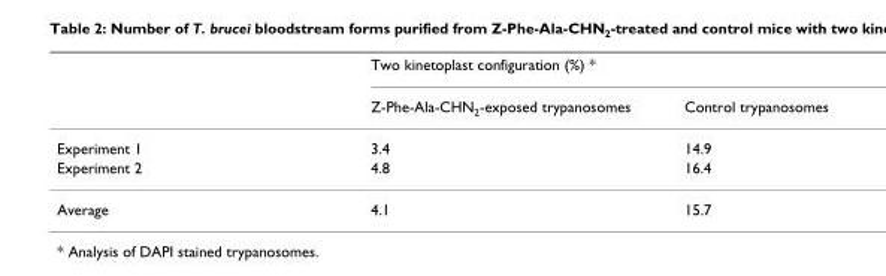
<table><thead><tr><td rowspan="2"></td><td colspan="2">Two kinetoplast configuration (%) *</td></tr><tr><td>Z-Phe-Ala-CHN<sub>2</sub>-exposed trypanosomes</td><td>Control trypanosomes</td></tr></thead><tbody><tr><td>Experiment 1</td><td>3.4</td><td>14.9</td></tr><tr><td>Experiment 2</td><td>4.8</td><td>16.4</td></tr><tr><td>Average</td><td>4.1</td><td>15.7</td></tr></tbody></table>